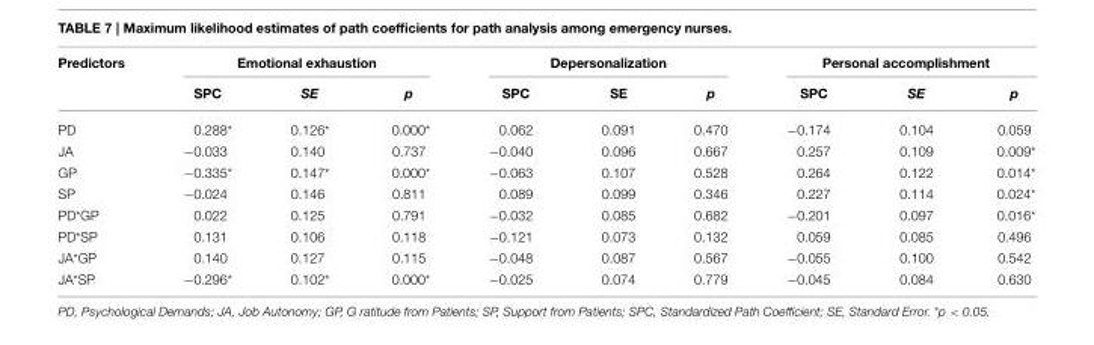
<table><thead><tr><td rowspan="2">Predictors</td><td colspan="3">Emotional exhaustion</td><td colspan="3">Depersonalization</td><td colspan="3">Personal accomplishment</td></tr><tr><td>SPC</td><td>SE</td><td>p</td><td>SPC</td><td>SE</td><td>p</td><td>SPC</td><td>SE</td><td>p</td></tr></thead><tbody><tr><td>PD</td><td>0.288*</td><td>0.126*</td><td>0.000*</td><td>0.062</td><td>0.091</td><td>0.470</td><td>−0.174</td><td>0.104</td><td>0.059</td></tr><tr><td>JA</td><td>−0.033</td><td>0.140</td><td>0.737</td><td>−0.040</td><td>0.096</td><td>0.667</td><td>0.257</td><td>0.109</td><td>0.009*</td></tr><tr><td>GP</td><td>−0.335*</td><td>0.147*</td><td>0.000*</td><td>−0.063</td><td>0.107</td><td>0.528</td><td>0.264</td><td>0.122</td><td>0.014*</td></tr><tr><td>SP</td><td>−0.024</td><td>0.146</td><td>0.811</td><td>0.089</td><td>0.099</td><td>0.346</td><td>0.227</td><td>0.114</td><td>0.024*</td></tr><tr><td>PD*GP</td><td>0.022</td><td>0.125</td><td>0.791</td><td>−0.032</td><td>0.085</td><td>0.682</td><td>−0.201</td><td>0.097</td><td>0.016*</td></tr><tr><td>PD*SP</td><td>0.131</td><td>0.106</td><td>0.118</td><td>−0.121</td><td>0.073</td><td>0.132</td><td>0.059</td><td>0.085</td><td>0.496</td></tr><tr><td>JA*GP</td><td>0.140</td><td>0.127</td><td>0.115</td><td>−0.048</td><td>0.087</td><td>0.567</td><td>−0.055</td><td>0.100</td><td>0.542</td></tr><tr><td>JA*SP</td><td>−0.296*</td><td>0.102*</td><td>0.000*</td><td>−0.025</td><td>0.074</td><td>0.779</td><td>−0.045</td><td>0.084</td><td>0.630</td></tr></tbody></table>